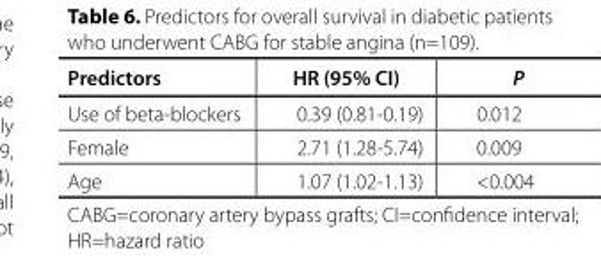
<table><thead><tr><td>Predictors</td><td>HR (95% CI)</td><td>P</td></tr></thead><tbody><tr><td>Use of beta-blockers</td><td>0.39 (0.81-0.19)</td><td>0.012</td></tr><tr><td>Female</td><td>2.71 (1.28-5.74)</td><td>0.009</td></tr><tr><td>Age</td><td>1.07 (1.02-1.13)</td><td>&lt;0.004</td></tr></tbody></table>